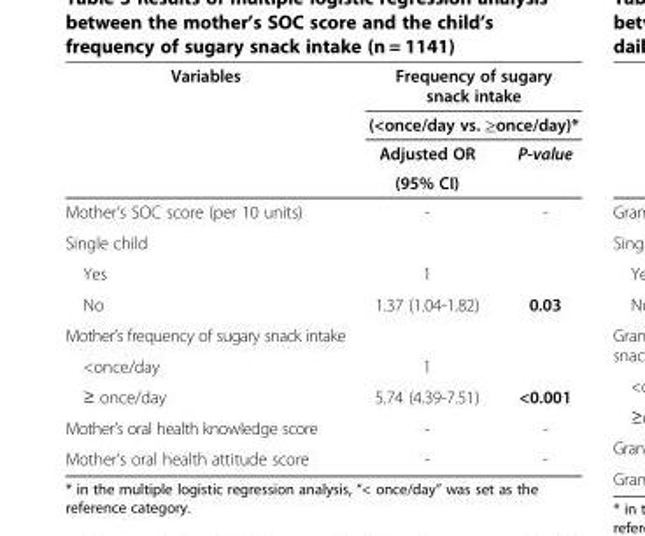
<table><thead><tr><td rowspan="4">Variables</td><td rowspan="2" colspan="2">Frequency of sugary snack intake (&lt;once/day vs. ≥once/day)*</td></tr><tr></tr><tr><td rowspan="2">Adjusted OR (95% CI)</td><td rowspan="2">P-value</td></tr><tr></tr></thead><tbody><tr><td>Mother’s SOC score (per 10 units)</td><td>-</td><td>-</td></tr><tr><td colspan="3">Single child</td></tr><tr><td>Yes</td><td>1</td><td></td></tr><tr><td>No</td><td>1.37 (1.04-1.82)</td><td>0.03</td></tr><tr><td colspan="3">Mother’s frequency of sugary snack intake</td></tr><tr><td>&lt;once/day</td><td>1</td><td></td></tr><tr><td>≥ once/day</td><td>5.74 (4.39-7.51)</td><td>&lt;0.001</td></tr><tr><td>Mother’s oral health knowledge score</td><td>-</td><td>-</td></tr><tr><td>Mother’s oral health attitude score</td><td>-</td><td>-</td></tr></tbody></table>